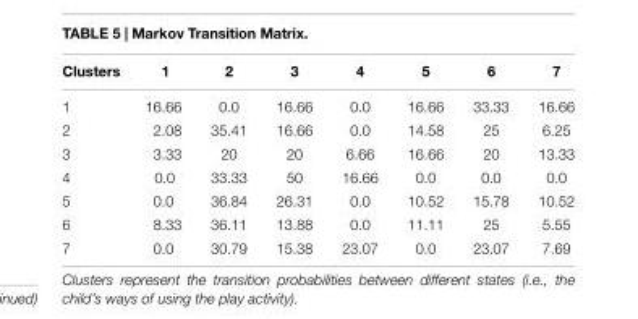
<table><thead><tr><td>Clusters</td><td>1</td><td>2</td><td>3</td><td>4</td><td>5</td><td>6</td><td>7</td></tr></thead><tbody><tr><td>1</td><td>16.66</td><td>0.0</td><td>16.66</td><td>0.0</td><td>16.66</td><td>33.33</td><td>16.66</td></tr><tr><td>2</td><td>2.08</td><td>35.41</td><td>16.66</td><td>0.0</td><td>14.58</td><td>25</td><td>6.25</td></tr><tr><td>3</td><td>3.33</td><td>20</td><td>20</td><td>6.66</td><td>16.66</td><td>20</td><td>13.33</td></tr><tr><td>4</td><td>0.0</td><td>33.33</td><td>50</td><td>16.66</td><td>0.0</td><td>0.0</td><td>0.0</td></tr><tr><td>5</td><td>0.0</td><td>36.84</td><td>26.31</td><td>0.0</td><td>10.52</td><td>15.78</td><td>10.52</td></tr><tr><td>6</td><td>8.33</td><td>36.11</td><td>13.88</td><td>0.0</td><td>11.11</td><td>25</td><td>5.55</td></tr><tr><td>7</td><td>0.0</td><td>30.79</td><td>15.38</td><td>23.07</td><td>0.0</td><td>23.07</td><td>7.69</td></tr></tbody></table>